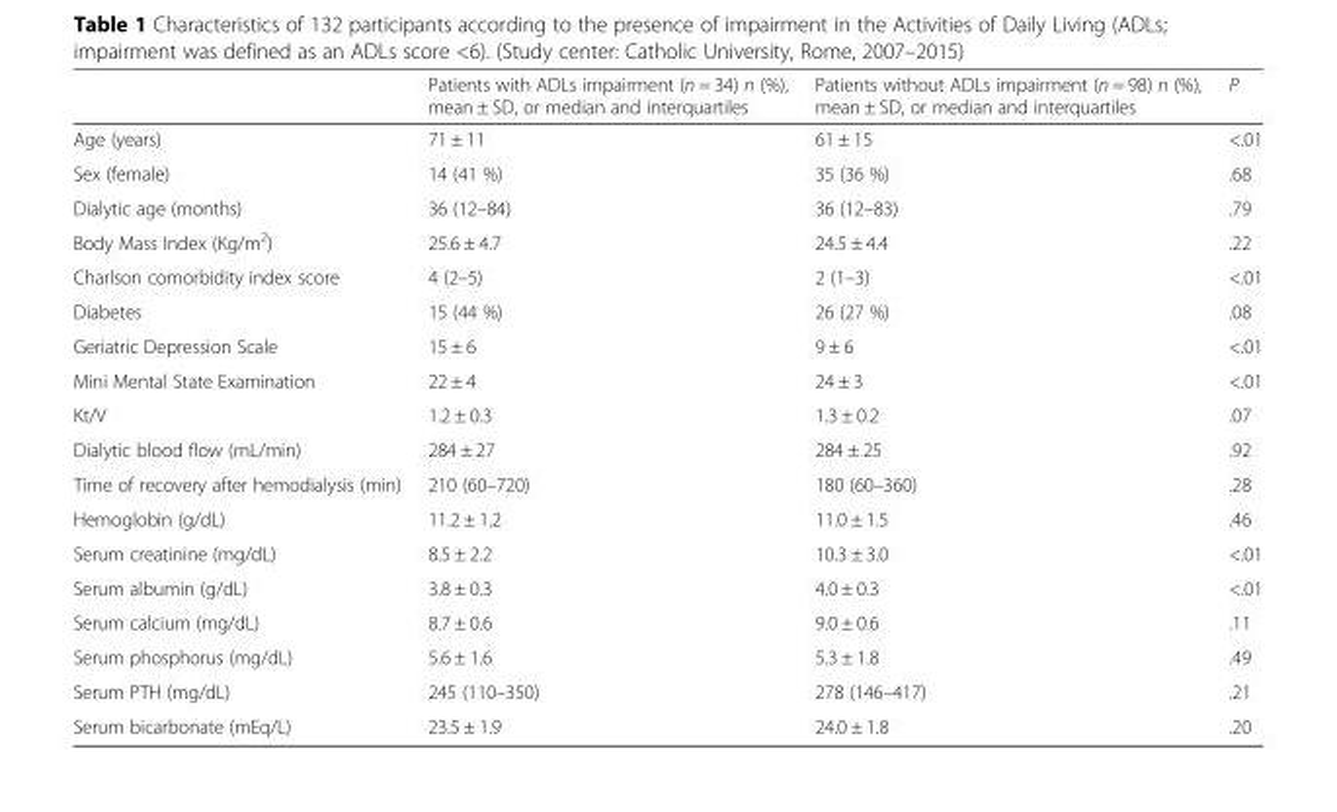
<table><thead><tr><td></td><td>Patients with ADLs impairment (n = 34) n (%), mean ± SD, or median and interquartiles</td><td>Patients without ADLs impairment (n = 98) n (%), mean ± SD, or median and interquartiles</td><td>P</td></tr></thead><tbody><tr><td>Age (years)</td><td>71 ± 11</td><td>61 ± 15</td><td>&lt;.01</td></tr><tr><td>Sex (female)</td><td>14 (41 %)</td><td>35 (36 %)</td><td>.68</td></tr><tr><td>Dialytic age (months)</td><td>36 (12–84)</td><td>36 (12–83)</td><td>.79</td></tr><tr><td>Body Mass Index (Kg/m<sup>2</sup>)</td><td>25.6 ± 4.7</td><td>24.5 ± 4.4</td><td>.22</td></tr><tr><td>Charlson comorbidity index score</td><td>4 (2–5)</td><td>2 (1–3)</td><td>&lt;.01</td></tr><tr><td>Diabetes</td><td>15 (44 %)</td><td>26 (27 %)</td><td>.08</td></tr><tr><td>Geriatric Depression Scale</td><td>15 ± 6</td><td>9 ± 6</td><td>&lt;.01</td></tr><tr><td>Mini Mental State Examination</td><td>22 ± 4</td><td>24 ± 3</td><td>&lt;.01</td></tr><tr><td>Kt/V</td><td>1.2 ± 0.3</td><td>1.3 ± 0.2</td><td>.07</td></tr><tr><td>Dialytic blood flow (mL/min)</td><td>284 ± 27</td><td>284 ± 25</td><td>.92</td></tr><tr><td>Time of recovery after hemodialysis (min)</td><td>210 (60–720)</td><td>180 (60–360)</td><td>.28</td></tr><tr><td>Hemoglobin (g/dL)</td><td>11.2 ± 1.2</td><td>11.0 ± 1.5</td><td>.46</td></tr><tr><td>Serum creatinine (mg/dL)</td><td>8.5 ± 2.2</td><td>10.3 ± 3.0</td><td>&lt;.01</td></tr><tr><td>Serum albumin (g/dL)</td><td>3.8 ± 0.3</td><td>4.0 ± 0.3</td><td>&lt;.01</td></tr><tr><td>Serum calcium (mg/dL)</td><td>8.7 ± 0.6</td><td>9.0 ± 0.6</td><td>.11</td></tr><tr><td>Serum phosphorus (mg/dL)</td><td>5.6 ± 1.6</td><td>5.3 ± 1.8</td><td>.49</td></tr><tr><td>Serum PTH (mg/dL)</td><td>245 (110–350)</td><td>278 (146–417)</td><td>.21</td></tr><tr><td>Serum bicarbonate (mEq/L)</td><td>23.5 ± 1.9</td><td>24.0 ± 1.8</td><td>.20</td></tr></tbody></table>